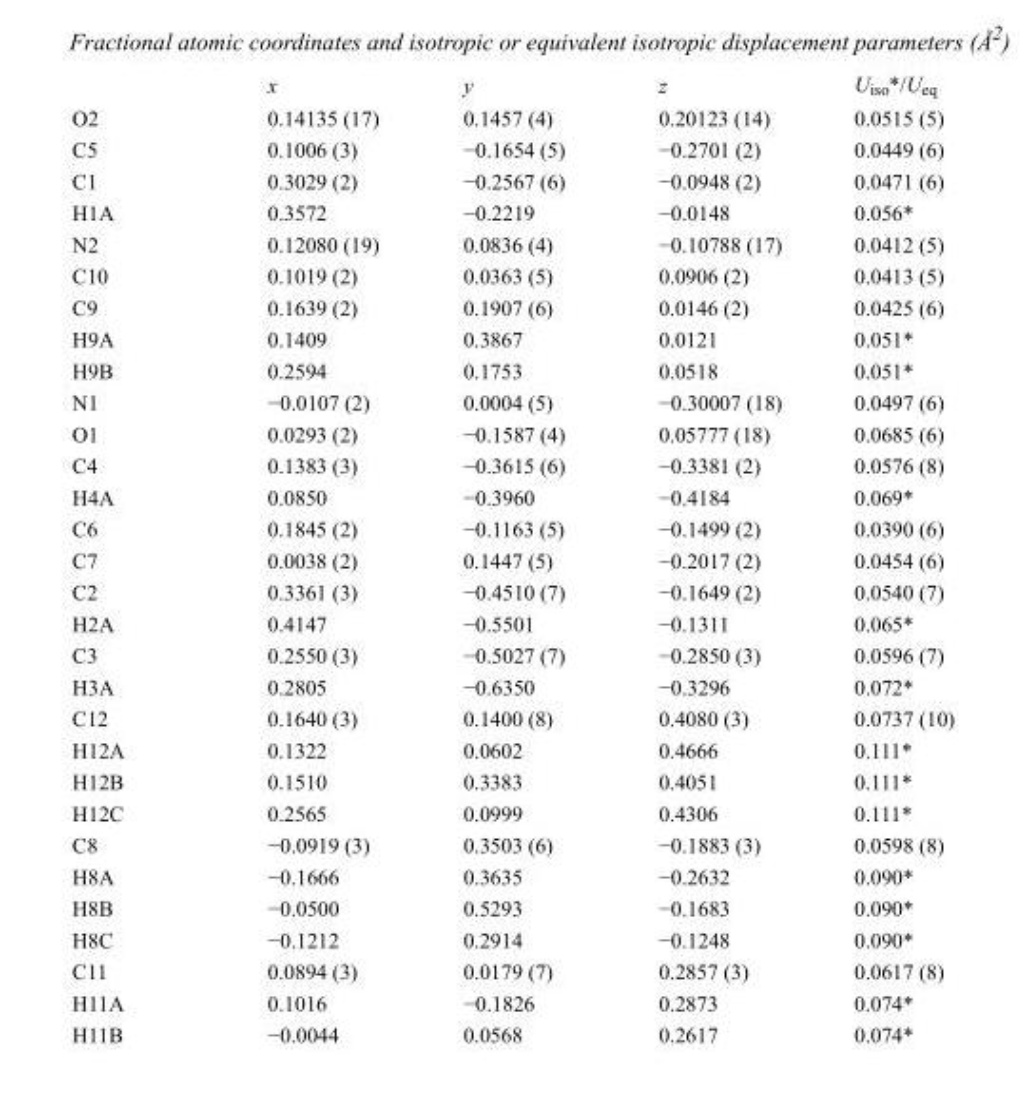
<table><thead><tr><td></td><td>x</td><td>y</td><td>z</td><td>U<sub>iso</sub>*/U<sub>eq</sub></td></tr></thead><tbody><tr><td>O2</td><td>0.14135 (17)</td><td>0.1457 (4)</td><td>0.20123 (14)</td><td>0.0515 (5)</td></tr><tr><td>C5</td><td>0.1006 (3)</td><td>−0.1654 (5)</td><td>−0.2701 (2)</td><td>0.0449 (6)</td></tr><tr><td>C1</td><td>0.3029 (2)</td><td>−0.2567 (6)</td><td>−0.0948 (2)</td><td>0.0471 (6)</td></tr><tr><td>H1A</td><td>0.3572</td><td>−0.2219</td><td>−0.0148</td><td>0.056*</td></tr><tr><td>N2</td><td>0.12080 (19)</td><td>0.0836 (4)</td><td>−0.10788 (17)</td><td>0.0412 (5)</td></tr><tr><td>C10</td><td>0.1019 (2)</td><td>0.0363 (5)</td><td>0.0906 (2)</td><td>0.0413 (5)</td></tr><tr><td>C9</td><td>0.1639 (2)</td><td>0.1907 (6)</td><td>0.0146 (2)</td><td>0.0425 (6)</td></tr><tr><td>H9A</td><td>0.1409</td><td>0.3867</td><td>0.0121</td><td>0.051*</td></tr><tr><td>H9B</td><td>0.2594</td><td>0.1753</td><td>0.0518</td><td>0.051*</td></tr><tr><td>N1</td><td>−0.0107 (2)</td><td>0.0004 (5)</td><td>−0.30007 (18)</td><td>0.0497 (6)</td></tr><tr><td>O1</td><td>0.0293 (2)</td><td>−0.1587 (4)</td><td>0.05777 (18)</td><td>0.0685 (6)</td></tr><tr><td>C4</td><td>0.1383 (3)</td><td>−0.3615 (6)</td><td>−0.3381 (2)</td><td>0.0576 (8)</td></tr><tr><td>H4A</td><td>0.0850</td><td>−0.3960</td><td>−0.4184</td><td>0.069*</td></tr><tr><td>C6</td><td>0.1845 (2)</td><td>−0.1163 (5)</td><td>−0.1499 (2)</td><td>0.0390 (6)</td></tr><tr><td>C7</td><td>0.0038 (2)</td><td>0.1447 (5)</td><td>−0.2017 (2)</td><td>0.0454 (6)</td></tr><tr><td>C2</td><td>0.3361 (3)</td><td>−0.4510 (7)</td><td>−0.1649 (2)</td><td>0.0540 (7)</td></tr><tr><td>H2A</td><td>0.4147</td><td>−0.5501</td><td>−0.1311</td><td>0.065*</td></tr><tr><td>C3</td><td>0.2550 (3)</td><td>−0.5027 (7)</td><td>−0.2850 (3)</td><td>0.0596 (7)</td></tr><tr><td>H3A</td><td>0.2805</td><td>−0.6350</td><td>−0.3296</td><td>0.072*</td></tr><tr><td>C12</td><td>0.1640 (3)</td><td>0.1400 (8)</td><td>0.4080 (3)</td><td>0.0737 (10)</td></tr><tr><td>H12A</td><td>0.1322</td><td>0.0602</td><td>0.4666</td><td>0.111*</td></tr><tr><td>H12B</td><td>0.1510</td><td>0.3383</td><td>0.4051</td><td>0.111*</td></tr><tr><td>H12C</td><td>0.2565</td><td>0.0999</td><td>0.4306</td><td>0.111*</td></tr><tr><td>C8</td><td>−0.0919 (3)</td><td>0.3503 (6)</td><td>−0.1883 (3)</td><td>0.0598 (8)</td></tr><tr><td>H8A</td><td>−0.1666</td><td>0.3635</td><td>−0.2632</td><td>0.090*</td></tr><tr><td>H8B</td><td>−0.0500</td><td>0.5293</td><td>−0.1683</td><td>0.090*</td></tr><tr><td>H8C</td><td>−0.1212</td><td>0.2914</td><td>−0.1248</td><td>0.090*</td></tr><tr><td>C11</td><td>0.0894 (3)</td><td>0.0179 (7)</td><td>0.2857 (3)</td><td>0.0617 (8)</td></tr><tr><td>H11A</td><td>0.1016</td><td>−0.1826</td><td>0.2873</td><td>0.074*</td></tr><tr><td>H11B</td><td>−0.0044</td><td>0.0568</td><td>0.2617</td><td>0.074*</td></tr></tbody></table>